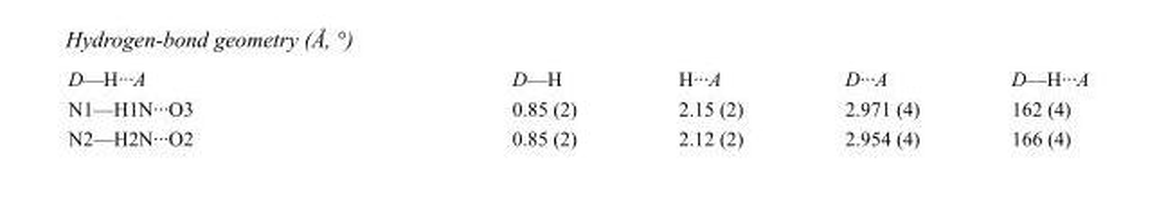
<table><tbody><tr><td>D—H···A</td><td>D—H</td><td>H···A</td><td>D···A</td><td>D—H···A</td></tr><tr><td>N1—H1N···O3</td><td>0.85 (2)</td><td>2.15 (2)</td><td>2.971 (4)</td><td>162 (4)</td></tr><tr><td>N2—H2N···O2</td><td>0.85 (2)</td><td>2.12 (2)</td><td>2.954 (4)</td><td>166 (4)</td></tr></tbody></table>